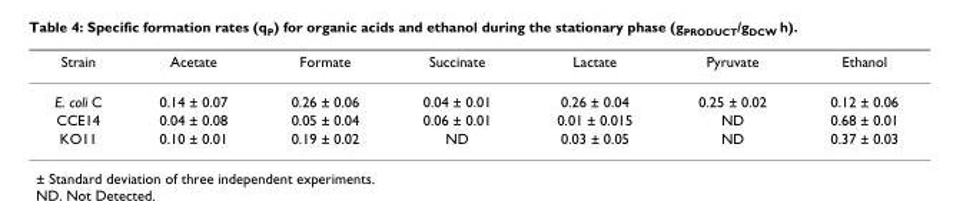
<table><thead><tr><td>Strain</td><td>Acetate</td><td>Formate</td><td>Succinate</td><td>Lactate</td><td>Pyruvate</td><td>Ethanol</td></tr></thead><tbody><tr><td>E. coli C</td><td>0.14 ± 0.07</td><td>0.26 ± 0.06</td><td>0.04 ± 0.01</td><td>0.26 ± 0.04</td><td>0.25 ± 0.02</td><td>0.12 ± 0.06</td></tr><tr><td>CCE14</td><td>0.04 ± 0.08</td><td>0.05 ± 0.04</td><td>0.06 ± 0.01</td><td>0.01 ± 0.015</td><td>ND</td><td>0.68 ± 0.01</td></tr><tr><td>KO11</td><td>0.10 ± 0.01</td><td>0.19 ± 0.02</td><td>ND</td><td>0.03 ± 0.05</td><td>ND</td><td>0.37 ± 0.03</td></tr></tbody></table>